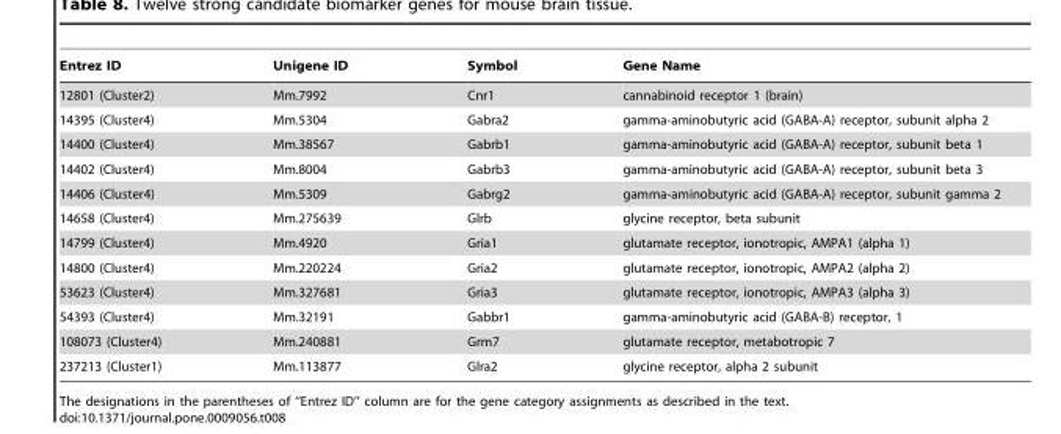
<table><thead><tr><td>Entrez ID</td><td>Unigene ID</td><td>Symbol</td><td>Gene Name</td></tr></thead><tbody><tr><td>12801 (Cluster2)</td><td>Mm.7992</td><td>Cnr1</td><td>cannabinoid receptor 1 (brain)</td></tr><tr><td>14395 (Cluster4)</td><td>Mm.5304</td><td>Gabra2</td><td>gamma-aminobutyric acid (GABA-A) receptor, subunit alpha 2</td></tr><tr><td>14400 (Cluster4)</td><td>Mm.38567</td><td>Gabrb1</td><td>gamma-aminobutyric acid (GABA-A) receptor, subunit beta 1</td></tr><tr><td>14402 (Cluster4)</td><td>Mm.8004</td><td>Gabrb3</td><td>gamma-aminobutyric acid (GABA-A) receptor, subunit beta 3</td></tr><tr><td>14406 (Cluster4)</td><td>Mm.5309</td><td>Gabrg2</td><td>gamma-aminobutyric acid (GABA-A) receptor, subunit gamma 2</td></tr><tr><td>14658 (Cluster4)</td><td>Mm.275639</td><td>Glrb</td><td>glycine receptor, beta subunit</td></tr><tr><td>14799 (Cluster4)</td><td>Mm.4920</td><td>Gria1</td><td>glutamate receptor, ionotropic, AMPA1 (alpha 1)</td></tr><tr><td>14800 (Cluster4)</td><td>Mm.220224</td><td>Gria2</td><td>glutamate receptor, ionotropic, AMPA2 (alpha 2)</td></tr><tr><td>53623 (Cluster4)</td><td>Mm.327681</td><td>Gria3</td><td>glutamate receptor, ionotropic, AMPA3 (alpha 3)</td></tr><tr><td>54393 (Cluster4)</td><td>Mm.32191</td><td>Gabbr1</td><td>gamma-aminobutyric acid (GABA-B) receptor, 1</td></tr><tr><td>108073 (Cluster4)</td><td>Mm.240881</td><td>Grm7</td><td>glutamate receptor, metabotropic 7</td></tr><tr><td>237213 (Cluster1)</td><td>Mm.113877</td><td>Glra2</td><td>glycine receptor, alpha 2 subunit</td></tr></tbody></table>